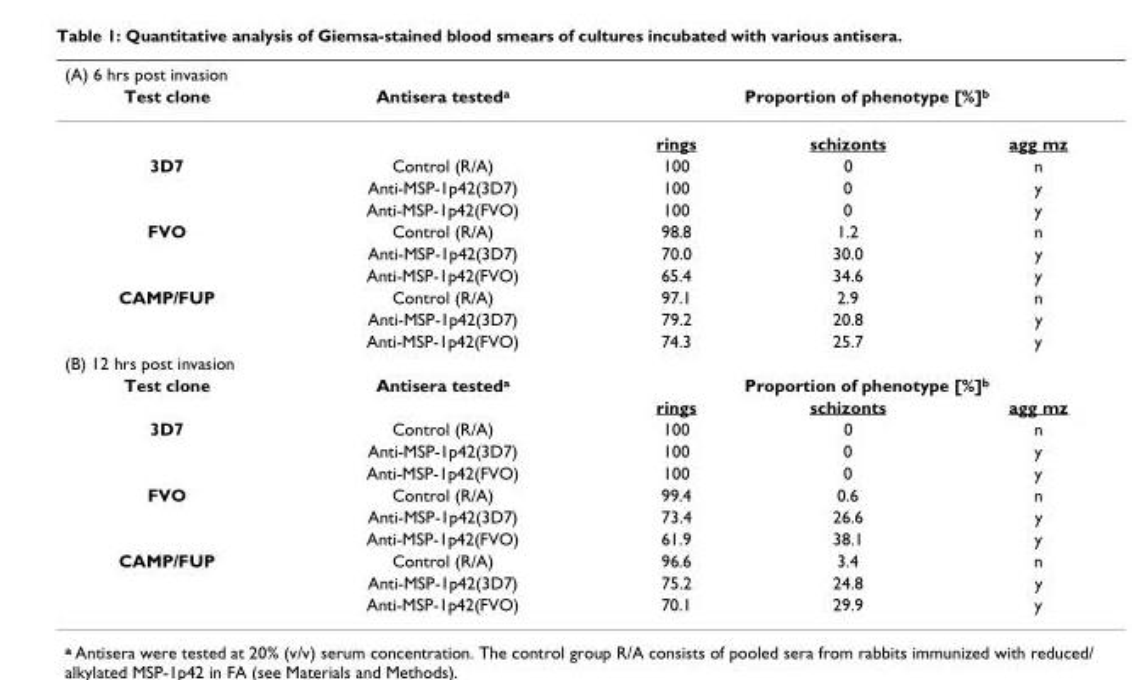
<table><thead><tr><td colspan="5">(A) 6 hrs post invasion</td></tr><tr><td rowspan="2">Test clone</td><td rowspan="2">Antisera tested<sup>a</sup></td><td colspan="3">Proportion of phenotype [%]<sup>b</sup></td></tr><tr><td>rings</td><td>schizonts</td><td>agg mz</td></tr></thead><tbody><tr><td rowspan="3">3D7</td><td>Control (R/A)</td><td>100</td><td>0</td><td>n</td></tr><tr><td>Anti-MSP-1p42(3D7)</td><td>100</td><td>0</td><td>y</td></tr><tr><td>Anti-MSP-1p42(FVO)</td><td>100</td><td>0</td><td>y</td></tr><tr><td rowspan="3">FVO</td><td>Control (R/A)</td><td>98.8</td><td>1.2</td><td>n</td></tr><tr><td>Anti-MSP-1p42(3D7)</td><td>70.0</td><td>30.0</td><td>y</td></tr><tr><td>Anti-MSP-1p42(FVO)</td><td>65.4</td><td>34.6</td><td>y</td></tr><tr><td rowspan="3">CAMP/FUP</td><td>Control (R/A)</td><td>97.1</td><td>2.9</td><td>n</td></tr><tr><td>Anti-MSP-1p42(3D7)</td><td>79.2</td><td>20.8</td><td>y</td></tr><tr><td>Anti-MSP-1p42(FVO)</td><td>74.3</td><td>25.7</td><td>y</td></tr><tr><td colspan="5">(B) 12 hrs post invasion</td></tr><tr><td rowspan="2">Test clone</td><td>Antisera tested<sup>a</sup></td><td colspan="3">Proportion of phenotype [%]<sup>b</sup></td></tr><tr><td></td><td>rings</td><td>schizonts</td><td>agg mz</td></tr><tr><td rowspan="3">3D7</td><td>Control (R/A)</td><td>100</td><td>0</td><td>n</td></tr><tr><td>Anti-MSP-1p42(3D7)</td><td>100</td><td>0</td><td>y</td></tr><tr><td>Anti-MSP-1p42(FVO)</td><td>100</td><td>0</td><td>y</td></tr><tr><td rowspan="3">FVO</td><td>Control (R/A)</td><td>99.4</td><td>0.6</td><td>n</td></tr><tr><td>Anti-MSP-1p42(3D7)</td><td>73.4</td><td>26.6</td><td>y</td></tr><tr><td>Anti-MSP-1p42(FVO)</td><td>61.9</td><td>38.1</td><td>y</td></tr><tr><td rowspan="3">CAMP/FUP</td><td>Control (R/A)</td><td>96.6</td><td>3.4</td><td>n</td></tr><tr><td>Anti-MSP-1p42(3D7)</td><td>75.2</td><td>24.8</td><td>y</td></tr><tr><td>Anti-MSP-1p42(FVO)</td><td>70.1</td><td>29.9</td><td>y</td></tr></tbody></table>